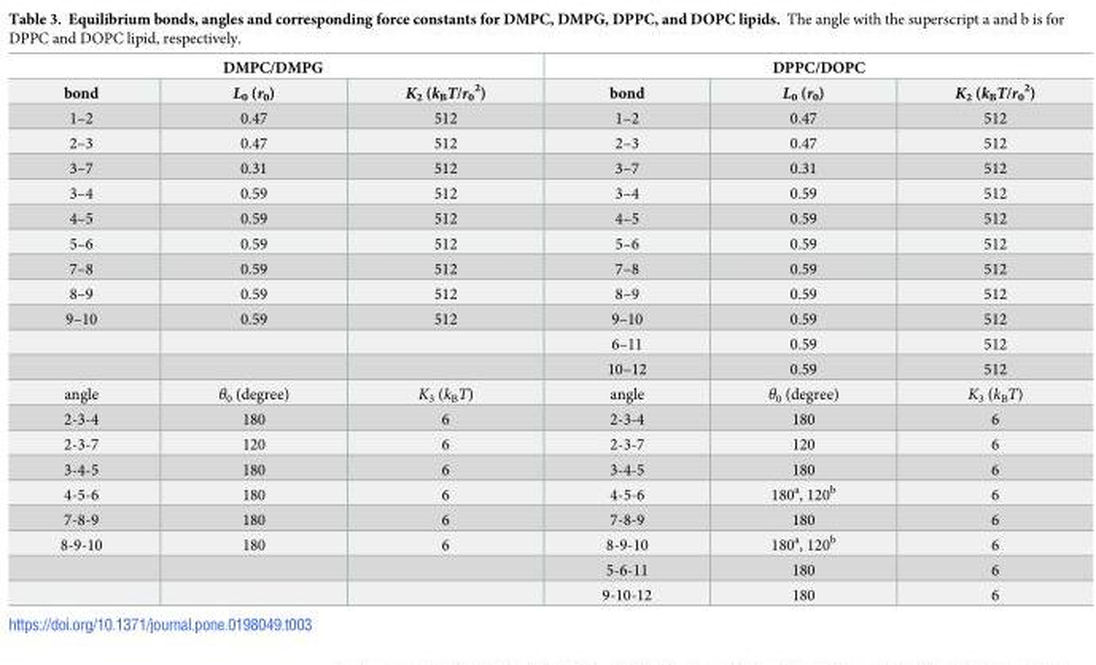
<table><thead><tr><td colspan="3">DMPC/DMPG</td><td colspan="3">DPPC/DOPC</td></tr><tr><td>bond</td><td>L<sub>0</sub> (r<sub>0</sub>)</td><td>K<sub>2</sub> (k<sub>B</sub>T/r<sub>0</sub> <sup>2</sup>)</td><td>bond</td><td>L<sub>0</sub> (r<sub>0</sub>)</td><td>K<sub>2</sub> (k<sub>B</sub>T/r<sub>0</sub> <sup>2</sup>)</td></tr></thead><tbody><tr><td>1–2</td><td>0.47</td><td>512</td><td>1–2</td><td>0.47</td><td>512</td></tr><tr><td>2–3</td><td>0.47</td><td>512</td><td>2–3</td><td>0.47</td><td>512</td></tr><tr><td>3–7</td><td>0.31</td><td>512</td><td>3–7</td><td>0.31</td><td>512</td></tr><tr><td>3–4</td><td>0.59</td><td>512</td><td>3–4</td><td>0.59</td><td>512</td></tr><tr><td>4–5</td><td>0.59</td><td>512</td><td>4–5</td><td>0.59</td><td>512</td></tr><tr><td>5–6</td><td>0.59</td><td>512</td><td>5–6</td><td>0.59</td><td>512</td></tr><tr><td>7–8</td><td>0.59</td><td>512</td><td>7–8</td><td>0.59</td><td>512</td></tr><tr><td>8–9</td><td>0.59</td><td>512</td><td>8–9</td><td>0.59</td><td>512</td></tr><tr><td rowspan="3">9–10</td><td>0.59</td><td>512</td><td>9–10</td><td>0.59</td><td>512</td></tr><tr><td></td><td></td><td>6–11</td><td>0.59</td><td>512</td></tr><tr><td></td><td></td><td>10–12</td><td>0.59</td><td>512</td></tr><tr><td>angle</td><td>θ<sub>0</sub> (degree)</td><td>K<sub>3</sub> (k<sub>B</sub>T)</td><td>angle</td><td>θ<sub>0</sub> (degree)</td><td>K<sub>3</sub> (k<sub>B</sub>T)</td></tr><tr><td>2-3-4</td><td>180</td><td>6</td><td>2-3-4</td><td>180</td><td>6</td></tr><tr><td>2-3-7</td><td>120</td><td>6</td><td>2-3-7</td><td>120</td><td>6</td></tr><tr><td>3-4-5</td><td>180</td><td>6</td><td>3-4-5</td><td>180</td><td>6</td></tr><tr><td>4-5-6</td><td>180</td><td>6</td><td>4-5-6</td><td>180<sup>a</sup>, 120<sup>b</sup></td><td>6</td></tr><tr><td>7-8-9</td><td>180</td><td>6</td><td>7-8-9</td><td>180</td><td>6</td></tr><tr><td rowspan="3">8-9-10</td><td>180</td><td>6</td><td>8-9-10</td><td>180<sup>a</sup>, 120<sup>b</sup></td><td>6</td></tr><tr><td></td><td></td><td>5-6-11</td><td>180</td><td>6</td></tr><tr><td></td><td></td><td>9-10-12</td><td>180</td><td>6</td></tr></tbody></table>